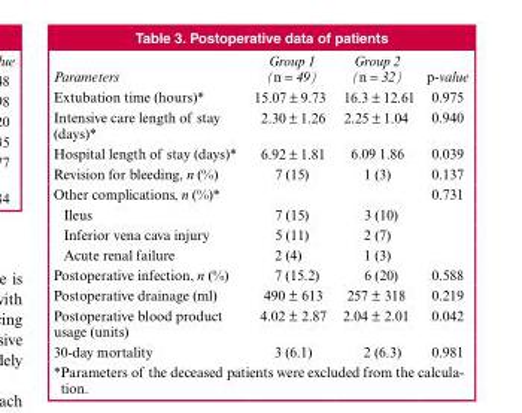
<table><thead><tr><td>Parameters</td><td>Group 1 (n = 49)</td><td>Group 2 (n = 32)</td><td>p-value</td></tr></thead><tbody><tr><td>Extubation time (hours)*</td><td>15.07 ± 9.73</td><td>16.3 ± 12.61</td><td>0.975</td></tr><tr><td>Intensive care length of stay (days)*</td><td>2.30 ± 1.26</td><td>2.25 ± 1.04</td><td>0.940</td></tr><tr><td>Hospital length of stay (days)*</td><td>6.92 ± 1.81</td><td>6.09 1.86</td><td>0.039</td></tr><tr><td>Revision for bleeding, n (%)</td><td>7 (15)</td><td>1 (3)</td><td>0.137</td></tr><tr><td>Other complications, n (%)*</td><td></td><td></td><td>0.731</td></tr><tr><td>Ileus</td><td>7 (15)</td><td>3 (10)</td><td></td></tr><tr><td>Inferior vena cava injury</td><td>5 (11)</td><td>2 (7)</td><td></td></tr><tr><td>Acute renal failure</td><td>2 (4)</td><td>1 (3)</td><td></td></tr><tr><td>Postoperative infection, n (%)</td><td>7 (15.2)</td><td>6 (20)</td><td>0.588</td></tr><tr><td>Postoperative drainage (ml)</td><td>490 ± 613</td><td>257 ± 318</td><td>0.219</td></tr><tr><td>Postoperative blood product usage (units)</td><td>4.02 ± 2.87</td><td>2.04 ± 2.01</td><td>0.042</td></tr><tr><td>30-day mortality</td><td>3 (6.1)</td><td>2 (6.3)</td><td>0.981</td></tr></tbody></table>